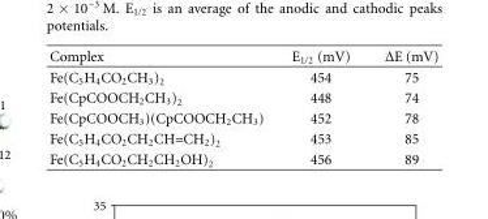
<table><thead><tr><td>Complex</td><td>E<sub>1/2</sub> (mV)</td><td>ΔE (mV)</td></tr></thead><tbody><tr><td>Fe(C<sub>5</sub>H<sub>4</sub>CO<sub>2</sub>CH<sub>3</sub>)<sub>2</sub></td><td>454</td><td>75</td></tr><tr><td>Fe(CpCOOCH<sub>2</sub>CH<sub>3</sub>)<sub>2</sub></td><td>448</td><td>74</td></tr><tr><td>Fe(CpCOOCH<sub>3</sub>)(CpCOOCH<sub>2</sub>CH<sub>3</sub>)</td><td>452</td><td>78</td></tr><tr><td>Fe(C<sub>5</sub>H<sub>4</sub>CO<sub>2</sub>CH<sub>2</sub>CH=CH<sub>2</sub>)<sub>2</sub></td><td>453</td><td>85</td></tr><tr><td>Fe(C<sub>5</sub>H<sub>4</sub>CO<sub>2</sub>CH<sub>2</sub>CH<sub>2</sub>OH)<sub>2</sub></td><td>456</td><td>89</td></tr></tbody></table>